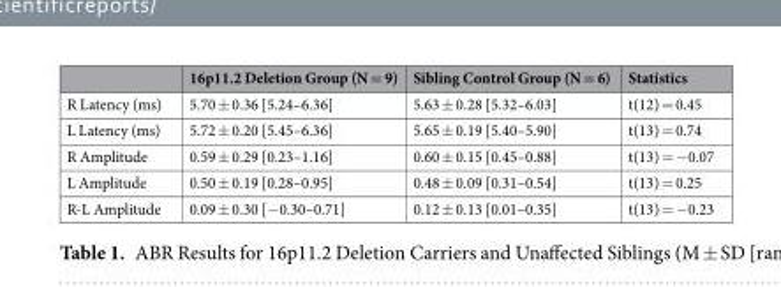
<table><thead><tr><td></td><td>16p11.2 Deletion Group (N = 9)</td><td>Sibling Control Group (N = 6)</td><td>Statistics</td></tr></thead><tbody><tr><td>R Latency (ms)</td><td>5.70 ± 0.36 [5.24–6.36]</td><td>5.63 ± 0.28 [5.32–6.03]</td><td>t(12) = 0.45</td></tr><tr><td>L Latency (ms)</td><td>5.72 ± 0.20 [5.45–6.36]</td><td>5.65 ± 0.19 [5.40–5.90]</td><td>t(13) = 0.74</td></tr><tr><td>R Amplitude</td><td>0.59 ± 0.29 [0.23–1.16]</td><td>0.60 ± 0.15 [0.45–0.88]</td><td>t(13) = −0.07</td></tr><tr><td>L Amplitude</td><td>0.50 ± 0.19 [0.28–0.95]</td><td>0.48 ± 0.09 [0.31–0.54]</td><td>t(13) = 0.25</td></tr><tr><td>R-L Amplitude</td><td>0.09 ± 0.30 [−0.30–0.71]</td><td>0.12 ± 0.13 [0.01–0.35]</td><td>t(13) = −0.23</td></tr></tbody></table>